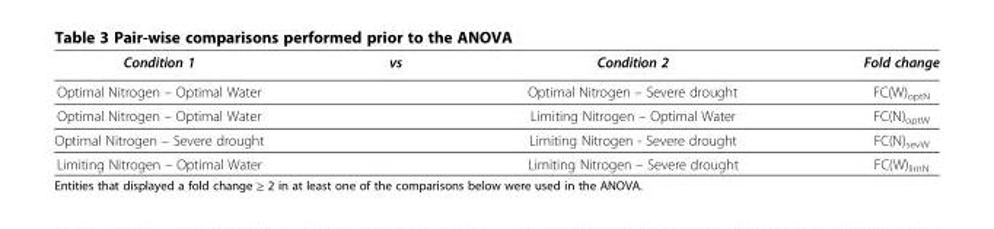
<table><thead><tr><td>Condition 1</td><td>vs</td><td>Condition 2</td><td>Fold change</td></tr></thead><tbody><tr><td>Optimal Nitrogen – Optimal Water</td><td></td><td>Optimal Nitrogen – Severe drought</td><td>FC(W)<sub>optN</sub></td></tr><tr><td>Optimal Nitrogen – Optimal Water</td><td></td><td>Limiting Nitrogen – Optimal Water</td><td>FC(N)<sub>optW</sub></td></tr><tr><td>Optimal Nitrogen – Severe drought</td><td></td><td>Limiting Nitrogen - Severe drought</td><td>FC(N)<sub>sevW</sub></td></tr><tr><td>Limiting Nitrogen – Optimal Water</td><td></td><td>Limiting Nitrogen – Severe drought</td><td>FC(W)<sub>limN</sub></td></tr></tbody></table>